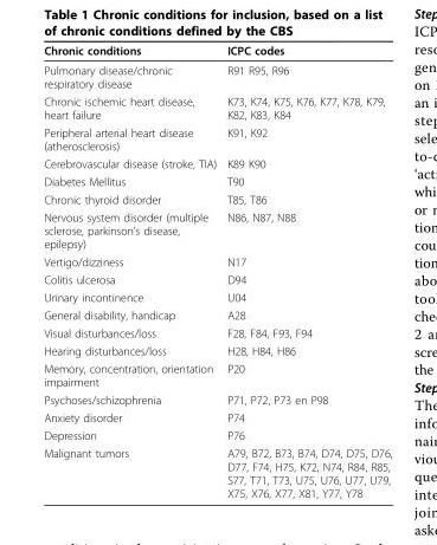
<table><thead><tr><td>Chronic conditions</td><td>ICPC codes</td></tr></thead><tbody><tr><td>Pulmonary disease/chronic respiratory disease</td><td>R91 R95, R96</td></tr><tr><td>Chronic ischemic heart disease, heart failure</td><td>K73, K74, K75, K76, K77, K78, K79, K82, K83, K84</td></tr><tr><td>Peripheral arterial heart disease (atherosclerosis)</td><td>K91, K92</td></tr><tr><td>Cerebrovascular disease (stroke, TIA)</td><td>K89 K90</td></tr><tr><td>Diabetes Mellitus</td><td>T90</td></tr><tr><td>Chronic thyroid disorder</td><td>T85, T86</td></tr><tr><td>Nervous system disorder (multiple sclerose, parkinson’s disease, epilepsy)</td><td>N86, N87, N88</td></tr><tr><td>Vertigo/dizziness</td><td>N17</td></tr><tr><td>Colitis ulcerosa</td><td>D94</td></tr><tr><td>Urinary incontinence</td><td>U04</td></tr><tr><td>General disability, handicap</td><td>A28</td></tr><tr><td>Visual disturbances/loss</td><td>F28, F84, F93, F94</td></tr><tr><td>Hearing disturbances/loss</td><td>H28, H84, H86</td></tr><tr><td>Memory, concentration, orientation impairment</td><td>P20</td></tr><tr><td>Psychoses/schizophrenia</td><td>P71, P72, P73 en P98</td></tr><tr><td>Anxiety disorder</td><td>P74</td></tr><tr><td>Depression</td><td>P76</td></tr><tr><td>Malignant tumors</td><td>A79, B72, B73, B74, D74, D75, D76, D77, F74, H75, K72, N74, R84, R85, S77, T71, T73, U75, U76, U77, U79, X75, X76, X77, X81, Y77, Y78</td></tr></tbody></table>